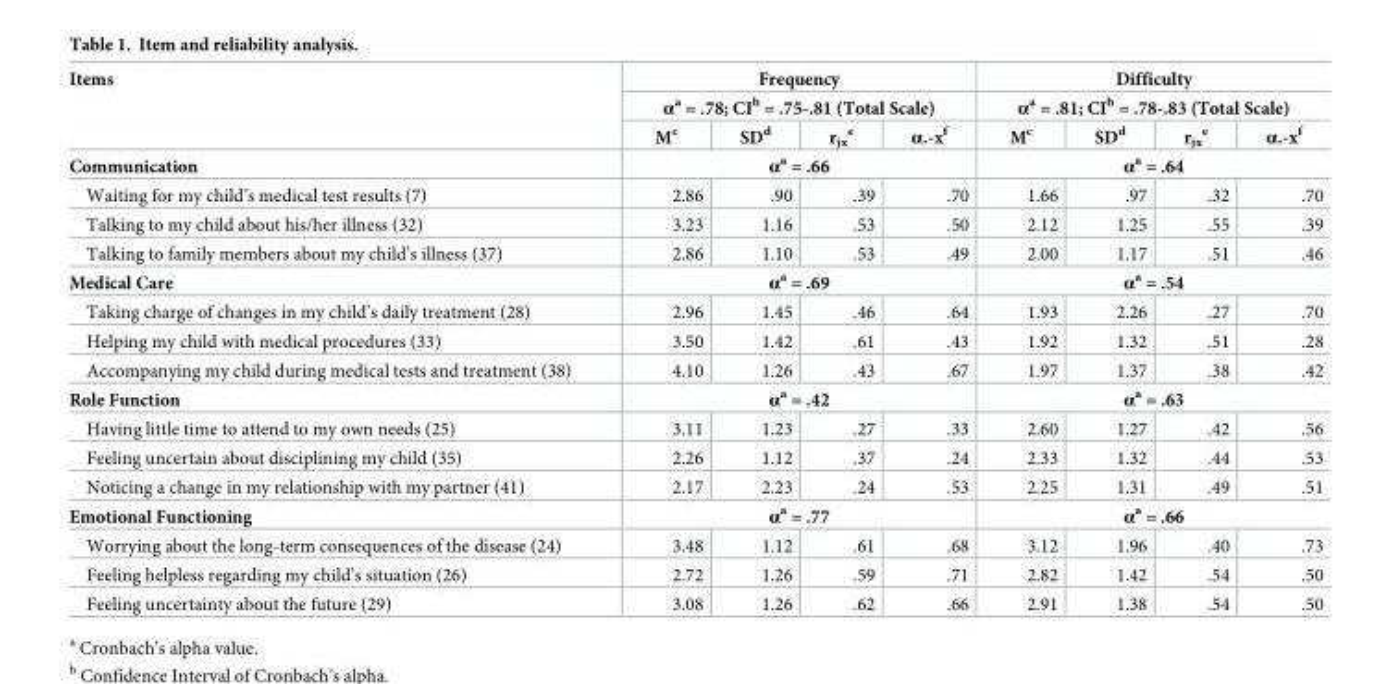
<table><thead><tr><td rowspan="3">Items</td><td rowspan="2" colspan="4">Frequency α<sup>a</sup> = .78; CI<sup>b</sup> = .75-.81 (Total Scale)</td><td rowspan="2" colspan="4">Difficulty α<sup>a</sup> = .81; CI<sup>b</sup> = .78-.83 (Total Scale)</td></tr><tr></tr><tr><td>M<sup>c</sup></td><td>SD<sup>d</sup></td><td>r<sub>jx</sub> <sup>e</sup></td><td>α.-x<sup>f</sup></td><td>M<sup>c</sup></td><td>SD<sup>d</sup></td><td>r<sub>jx</sub> <sup>e</sup></td><td>α.-x<sup>f</sup></td></tr></thead><tbody><tr><td>Communication</td><td colspan="4">α<sup>a</sup> = .66</td><td colspan="4">α<sup>a</sup> = .64</td></tr><tr><td>Waiting for my child’s medical test results (7)</td><td>2.86</td><td>.90</td><td>.39</td><td>.70</td><td>1.66</td><td>.97</td><td>.32</td><td>.70</td></tr><tr><td>Talking to my child about his/her illness (32)</td><td>3.23</td><td>1.16</td><td>.53</td><td>.50</td><td>2.12</td><td>1.25</td><td>.55</td><td>.39</td></tr><tr><td>Talking to family members about my child’s illness (37)</td><td>2.86</td><td>1.10</td><td>.53</td><td>.49</td><td>2.00</td><td>1.17</td><td>.51</td><td>.46</td></tr><tr><td>Medical Care</td><td colspan="4">α<sup>a</sup> = .69</td><td colspan="4">α<sup>a</sup> = .54</td></tr><tr><td>Taking charge of changes in my child’s daily treatment (28)</td><td>2.96</td><td>1.45</td><td>.46</td><td>.64</td><td>1.93</td><td>2.26</td><td>.27</td><td>.70</td></tr><tr><td>Helping my child with medical procedures (33)</td><td>3.50</td><td>1.42</td><td>.61</td><td>.43</td><td>1.92</td><td>1.32</td><td>.51</td><td>.28</td></tr><tr><td>Accompanying my child during medical tests and treatment (38)</td><td>4.10</td><td>1.26</td><td>.43</td><td>.67</td><td>1.97</td><td>1.37</td><td>.38</td><td>.42</td></tr><tr><td>Role Function</td><td colspan="4">α<sup>a</sup> = .42</td><td colspan="4">α<sup>a</sup> = .63</td></tr><tr><td>Having little time to attend to my own needs (25)</td><td>3.11</td><td>1.23</td><td>.27</td><td>.33</td><td>2.60</td><td>1.27</td><td>.42</td><td>.56</td></tr><tr><td>Feeling uncertain about disciplining my child (35)</td><td>2.26</td><td>1.12</td><td>.37</td><td>.24</td><td>2.33</td><td>1.32</td><td>.44</td><td>.53</td></tr><tr><td>Noticing a change in my relationship with my partner (41)</td><td>2.17</td><td>2.23</td><td>.24</td><td>.53</td><td>2.25</td><td>1.31</td><td>.49</td><td>.51</td></tr><tr><td>Emotional Functioning</td><td colspan="4">α<sup>a</sup> = .77</td><td colspan="4">α<sup>a</sup> = .66</td></tr><tr><td>Worrying about the long-term consequences of the disease (24)</td><td>3.48</td><td>1.12</td><td>.61</td><td>.68</td><td>3.12</td><td>1.96</td><td>.40</td><td>.73</td></tr><tr><td>Feeling helpless regarding my child’s situation (26)</td><td>2.72</td><td>1.26</td><td>.59</td><td>.71</td><td>2.82</td><td>1.42</td><td>.54</td><td>.50</td></tr><tr><td>Feeling uncertainty about the future (29)</td><td>3.08</td><td>1.26</td><td>.62</td><td>.66</td><td>2.91</td><td>1.38</td><td>.54</td><td>.50</td></tr></tbody></table>